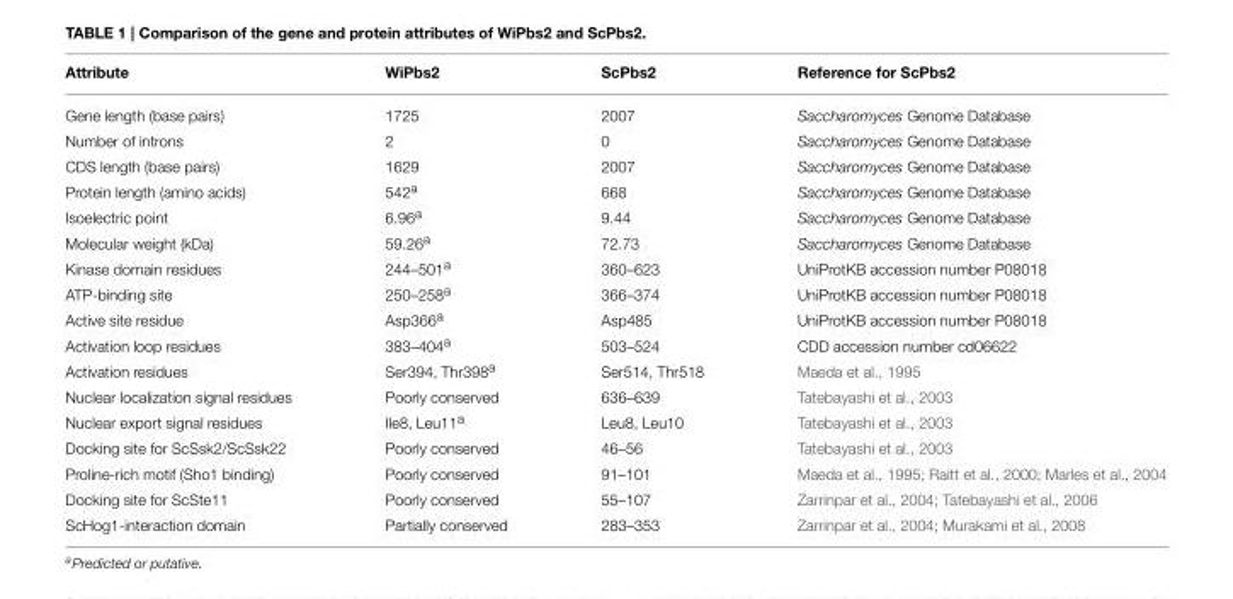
<table><thead><tr><td>Attribute</td><td>WiPbs2</td><td>ScPbs2</td><td>Reference for ScPbs2</td></tr></thead><tbody><tr><td>Gene length (base pairs)</td><td>1725</td><td>2007</td><td>Saccharomyces Genome Database</td></tr><tr><td>Number of introns</td><td>2</td><td>0</td><td>Saccharomyces Genome Database</td></tr><tr><td>CDS length (base pairs)</td><td>1629</td><td>2007</td><td>Saccharomyces Genome Database</td></tr><tr><td>Protein length (amino acids)</td><td>542<sup>a</sup></td><td>668</td><td>Saccharomyces Genome Database</td></tr><tr><td>Isoelectric point</td><td>6.96<sup>a</sup></td><td>9.44</td><td>Saccharomyces Genome Database</td></tr><tr><td>Molecular weight (kDa)</td><td>59.26<sup>a</sup></td><td>72.73</td><td>Saccharomyces Genome Database</td></tr><tr><td>Kinase domain residues</td><td>244–501<sup>a</sup></td><td>360–623</td><td>UniProtKB accession number P08018</td></tr><tr><td>ATP-binding site</td><td>250–258<sup>a</sup></td><td>366–374</td><td>UniProtKB accession number P08018</td></tr><tr><td>Active site residue</td><td>Asp366<sup>a</sup></td><td>Asp485</td><td>UniProtKB accession number P08018</td></tr><tr><td>Activation loop residues</td><td>383–404<sup>a</sup></td><td>503–524</td><td>CDD accession number cd06622</td></tr><tr><td>Activation residues</td><td>Ser394, Thr398<sup>a</sup></td><td>Ser514, Thr518</td><td>Maeda et al., 1995</td></tr><tr><td>Nuclear localization signal residues</td><td>Poorly conserved</td><td>636–639</td><td>Tatebayashi et al., 2003</td></tr><tr><td>Nuclear export signal residues</td><td>Ile8, Leu11<sup>a</sup></td><td>Leu8, Leu10</td><td>Tatebayashi et al., 2003</td></tr><tr><td>Docking site for ScSsk2/ScSsk22</td><td>Poorly conserved</td><td>46–56</td><td>Tatebayashi et al., 2003</td></tr><tr><td>Proline-rich motif (Sho1 binding)</td><td>Poorly conserved</td><td>91–101</td><td>Maeda et al., 1995; Raitt et al., 2000; Marles et al., 2004</td></tr><tr><td>Docking site for ScSte11</td><td>Poorly conserved</td><td>55–107</td><td>Zarrinpar et al., 2004; Tatebayashi et al., 2006</td></tr><tr><td>ScHog1-interaction domain</td><td>Partially conserved</td><td>283–353</td><td>Zarrinpar et al., 2004; Murakami et al., 2008</td></tr></tbody></table>